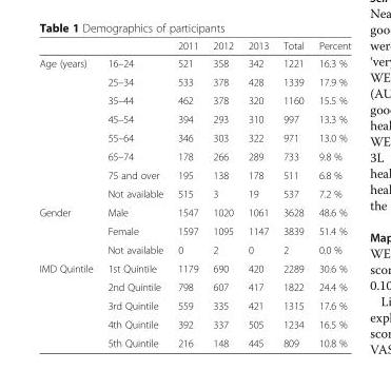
<table><thead><tr><td></td><td></td><td>2011</td><td>2012</td><td>2013</td><td>Total</td><td>Percent</td></tr></thead><tbody><tr><td rowspan="8">Age (years)</td><td>16–24</td><td>521</td><td>358</td><td>342</td><td>1221</td><td>16.3 %</td></tr><tr><td>25–34</td><td>533</td><td>378</td><td>428</td><td>1339</td><td>17.9 %</td></tr><tr><td>35–44</td><td>462</td><td>378</td><td>320</td><td>1160</td><td>15.5 %</td></tr><tr><td>45–54</td><td>394</td><td>293</td><td>310</td><td>997</td><td>13.3 %</td></tr><tr><td>55–64</td><td>346</td><td>303</td><td>322</td><td>971</td><td>13.0 %</td></tr><tr><td>65–74</td><td>178</td><td>266</td><td>289</td><td>733</td><td>9.8 %</td></tr><tr><td>75 and over</td><td>195</td><td>138</td><td>178</td><td>511</td><td>6.8 %</td></tr><tr><td>Not available</td><td>515</td><td>3</td><td>19</td><td>537</td><td>7.2 %</td></tr><tr><td rowspan="3">Gender</td><td>Male</td><td>1547</td><td>1020</td><td>1061</td><td>3628</td><td>48.6 %</td></tr><tr><td>Female</td><td>1597</td><td>1095</td><td>1147</td><td>3839</td><td>51.4 %</td></tr><tr><td>Not available</td><td>0</td><td>2</td><td>0</td><td>2</td><td>0.0 %</td></tr><tr><td rowspan="5">IMD Quintile</td><td>1st Quintile</td><td>1179</td><td>690</td><td>420</td><td>2289</td><td>30.6 %</td></tr><tr><td>2nd Quintile</td><td>798</td><td>607</td><td>417</td><td>1822</td><td>24.4 %</td></tr><tr><td>3rd Quintile</td><td>559</td><td>335</td><td>421</td><td>1315</td><td>17.6 %</td></tr><tr><td>4th Quintile</td><td>392</td><td>337</td><td>505</td><td>1234</td><td>16.5 %</td></tr><tr><td>5th Quintile</td><td>216</td><td>148</td><td>445</td><td>809</td><td>10.8 %</td></tr></tbody></table>